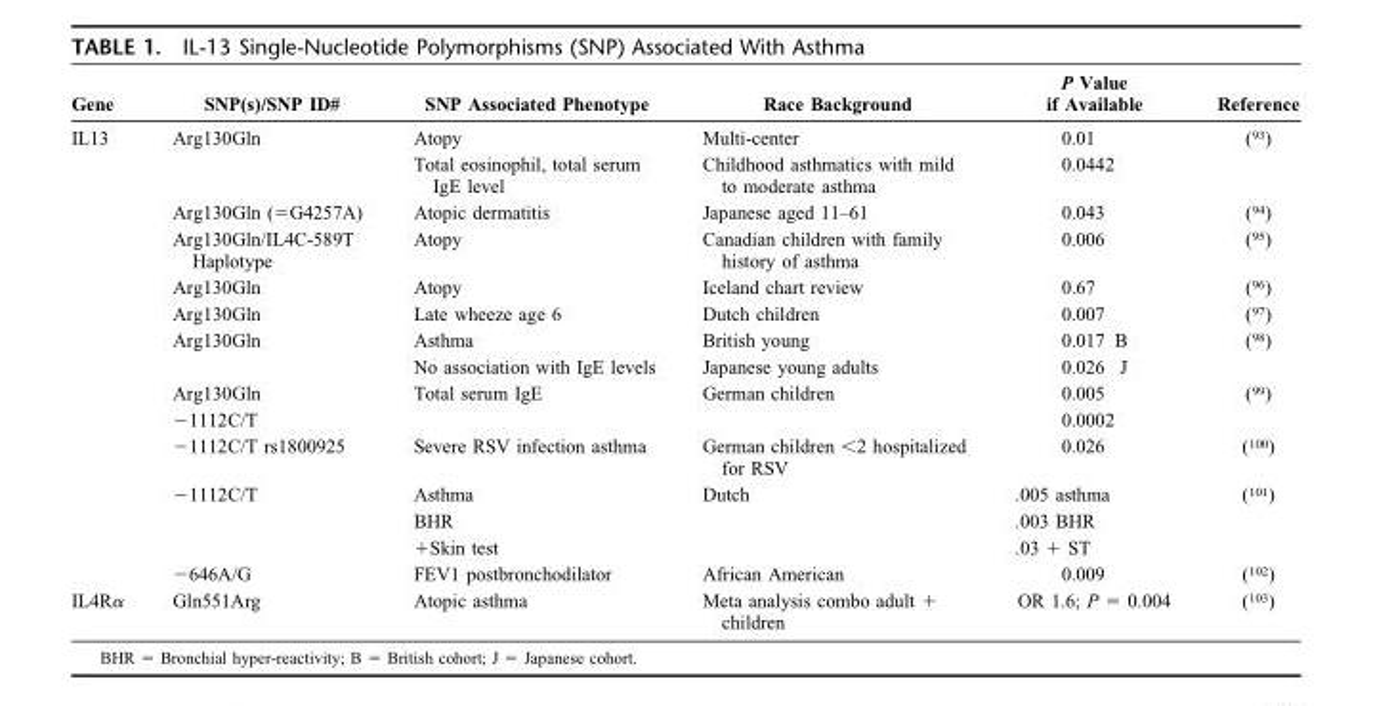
<table><thead><tr><td>Gene</td><td>SNP(s)/SNP ID#</td><td>SNP Associated Phenotype</td><td>Race Background</td><td>P Value if Available</td><td>Reference</td></tr></thead><tbody><tr><td rowspan="16">IL13</td><td>Arg130Gln</td><td>Atopy</td><td>Multi-center</td><td>0.01</td><td>(93)</td></tr><tr><td></td><td>Total eosinophil, total serum IgE level</td><td>Childhood asthmatics with mild to moderate asthma</td><td>0.0442</td><td></td></tr><tr><td>Arg130Gln (=G4257A)</td><td>Atopic dermatitis</td><td>Japanese aged 11–61</td><td>0.043</td><td>(94)</td></tr><tr><td>Arg130Gln/IL4C-589T</td><td>Atopy</td><td>Canadian children with family</td><td>0.006</td><td>(95)</td></tr><tr><td>Haplotype</td><td></td><td>history of asthma</td><td></td><td></td></tr><tr><td>Arg130Gln</td><td>Atopy</td><td>Iceland chart review</td><td>0.67</td><td>(96)</td></tr><tr><td>Arg130Gln</td><td>Late wheeze age 6</td><td>Dutch children</td><td>0.007</td><td>(97)</td></tr><tr><td>Arg130Gln</td><td>Asthma</td><td>British young</td><td>0.017 B</td><td>(98)</td></tr><tr><td></td><td>No association with IgE levels</td><td>Japanese young adults</td><td>0.026 J</td><td></td></tr><tr><td>Arg130Gln</td><td>Total serum IgE</td><td>German children</td><td>0.005</td><td>(99)</td></tr><tr><td>-1112C/T</td><td></td><td></td><td>0.0002</td><td></td></tr><tr><td>-1112C/T rs1800925</td><td>Severe RSV infection asthma</td><td>German children &lt;2 hospitalized for RSV</td><td>0.026</td><td>(100)</td></tr><tr><td>-1112C/T</td><td>Asthma</td><td>Dutch</td><td>.005 asthma</td><td>(101)</td></tr><tr><td></td><td>BHR</td><td></td><td>.003 BHR</td><td></td></tr><tr><td></td><td>+Skin test</td><td></td><td>.03 + ST</td><td></td></tr><tr><td>-646A/G</td><td>FEV1 postbronchodilator</td><td>African American</td><td>0.009</td><td>(102)</td></tr><tr><td>IL4Rα</td><td>Gln551Arg</td><td>Atopic asthma</td><td>Meta analysis combo adult + children</td><td>OR 1.6; P = 0.004</td><td>(103)</td></tr></tbody></table>